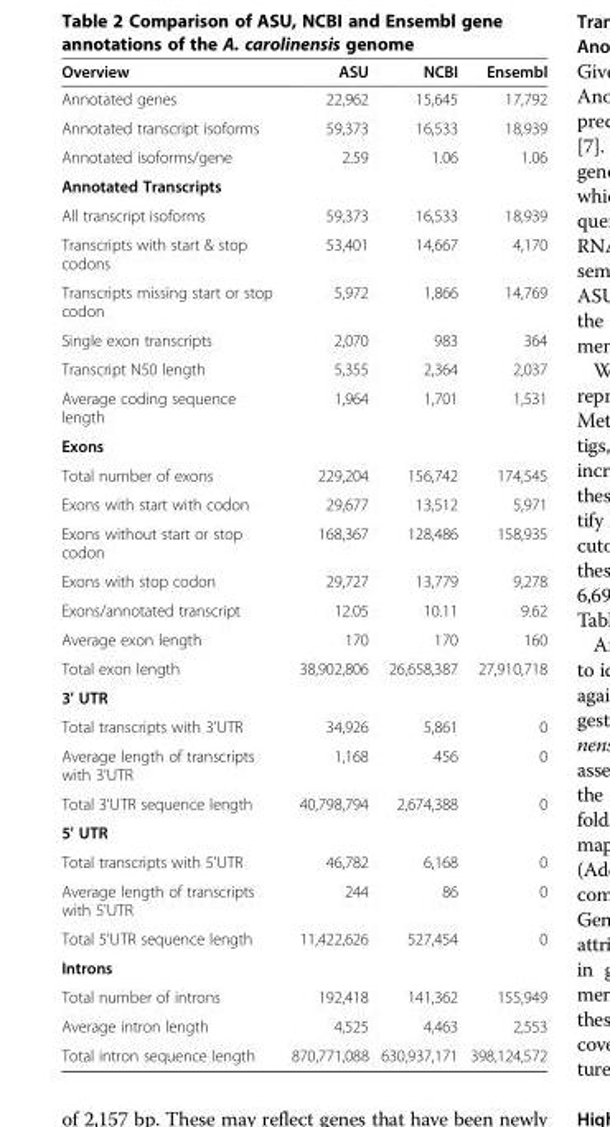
<table><thead><tr><td>Overview</td><td>ASU</td><td>NCBI</td><td>Ensembl</td></tr></thead><tbody><tr><td>Annotated genes</td><td>22,962</td><td>15,645</td><td>17,792</td></tr><tr><td>Annotated transcript isoforms</td><td>59,373</td><td>16,533</td><td>18,939</td></tr><tr><td>Annotated isoforms/gene</td><td>2.59</td><td>1.06</td><td>1.06</td></tr><tr><td colspan="4">Annotated Transcripts</td></tr><tr><td>All transcript isoforms</td><td>59,373</td><td>16,533</td><td>18,939</td></tr><tr><td>Transcripts with start &amp; stop codons</td><td>53,401</td><td>14,667</td><td>4,170</td></tr><tr><td>Transcripts missing start or stop codon</td><td>5,972</td><td>1,866</td><td>14,769</td></tr><tr><td>Single exon transcripts</td><td>2,070</td><td>983</td><td>364</td></tr><tr><td>Transcript N50 length</td><td>5,355</td><td>2,364</td><td>2,037</td></tr><tr><td>Average coding sequence length</td><td>1,964</td><td>1,701</td><td>1,531</td></tr><tr><td colspan="4">Exons</td></tr><tr><td>Total number of exons</td><td>229,204</td><td>156,742</td><td>174,545</td></tr><tr><td>Exons with start with codon</td><td>29,677</td><td>13,512</td><td>5,971</td></tr><tr><td>Exons without start or stop codon</td><td>168,367</td><td>128,486</td><td>158,935</td></tr><tr><td>Exons with stop codon</td><td>29,727</td><td>13,779</td><td>9,278</td></tr><tr><td>Exons/annotated transcript</td><td>12.05</td><td>10.11</td><td>9.62</td></tr><tr><td>Average exon length</td><td>170</td><td>170</td><td>160</td></tr><tr><td>Total exon length</td><td>38,902,806</td><td>26,658,387</td><td>27,910,718</td></tr><tr><td colspan="4">3&#x27; UTR</td></tr><tr><td>Total transcripts with 3&#x27;UTR</td><td>34,926</td><td>5,861</td><td>0</td></tr><tr><td>Average length of transcripts with 3&#x27;UTR</td><td>1,168</td><td>456</td><td>0</td></tr><tr><td>Total 3&#x27;UTR sequence length</td><td>40,798,794</td><td>2,674,388</td><td>0</td></tr><tr><td colspan="4">5&#x27; UTR</td></tr><tr><td>Total transcripts with 5&#x27;UTR</td><td>46,782</td><td>6,168</td><td>0</td></tr><tr><td>Average length of transcripts with 5&#x27;UTR</td><td>244</td><td>86</td><td>0</td></tr><tr><td>Total 5&#x27;UTR sequence length</td><td>11,422,626</td><td>527,454</td><td>0</td></tr><tr><td colspan="4">Introns</td></tr><tr><td>Total number of introns</td><td>192,418</td><td>141,362</td><td>155,949</td></tr><tr><td>Average intron length</td><td>4,525</td><td>4,463</td><td>2,553</td></tr><tr><td>Total intron sequence length</td><td>870,771,088</td><td>630,937,171</td><td>398,124,572</td></tr></tbody></table>